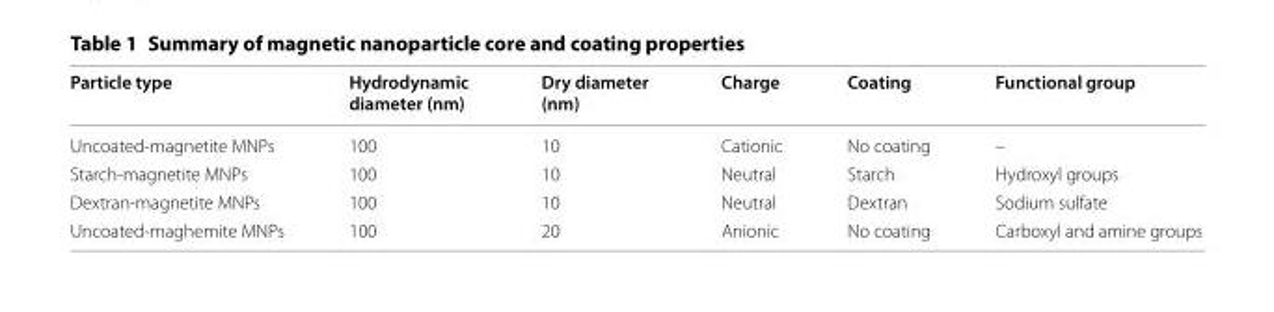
<table><thead><tr><td>Particle type</td><td>Hydrodynamic diameter (nm)</td><td>Dry diameter (nm)</td><td>Charge</td><td>Coating</td><td>Functional group</td></tr></thead><tbody><tr><td>Uncoated-magnetite MNPs</td><td>100</td><td>10</td><td>Cationic</td><td>No coating</td><td>–</td></tr><tr><td>Starch-magnetite MNPs</td><td>100</td><td>10</td><td>Neutral</td><td>Starch</td><td>Hydroxyl groups</td></tr><tr><td>Dextran-magnetite MNPs</td><td>100</td><td>10</td><td>Neutral</td><td>Dextran</td><td>Sodium sulfate</td></tr><tr><td>Uncoated-maghemite MNPs</td><td>100</td><td>20</td><td>Anionic</td><td>No coating</td><td>Carboxyl and amine groups</td></tr></tbody></table>